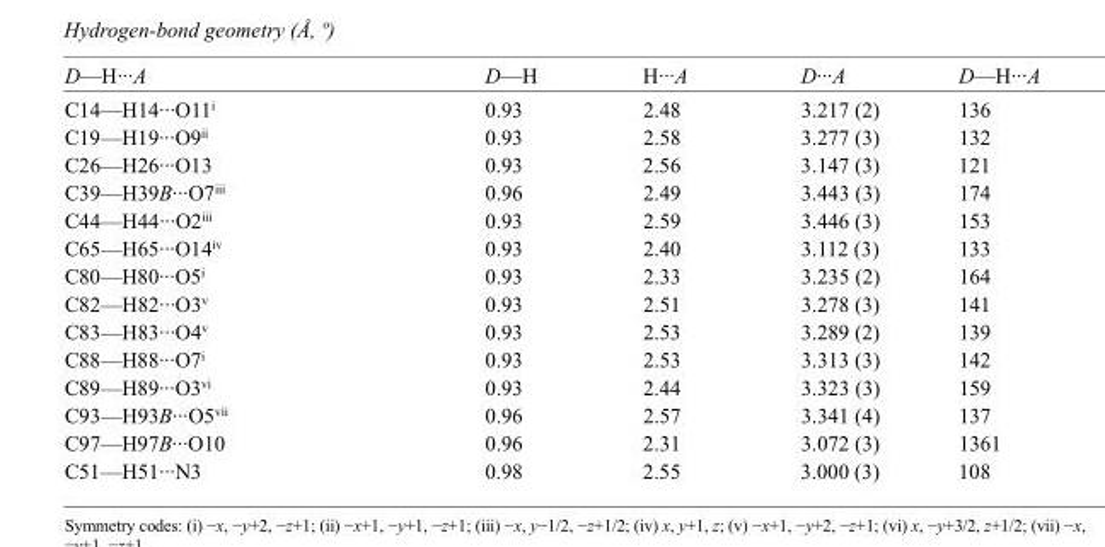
<table><tbody><tr><td>D—H···A</td><td>D—H</td><td>H···A</td><td>D···A</td><td>D—H···A</td></tr><tr><td>C14—H14···O11<sup>i</sup></td><td>0.93</td><td>2.48</td><td>3.217 (2)</td><td>136</td></tr><tr><td>C19—H19···O9<sup>ii</sup></td><td>0.93</td><td>2.58</td><td>3.277 (3)</td><td>132</td></tr><tr><td>C26—H26···O13</td><td>0.93</td><td>2.56</td><td>3.147 (3)</td><td>121</td></tr><tr><td>C39—H39B···O7<sup>iii</sup></td><td>0.96</td><td>2.49</td><td>3.443 (3)</td><td>174</td></tr><tr><td>C44—H44···O2<sup>iii</sup></td><td>0.93</td><td>2.59</td><td>3.446 (3)</td><td>153</td></tr><tr><td>C65—H65···O14<sup>iv</sup></td><td>0.93</td><td>2.40</td><td>3.112 (3)</td><td>133</td></tr><tr><td>C80—H80···O5<sup>i</sup></td><td>0.93</td><td>2.33</td><td>3.235 (2)</td><td>164</td></tr><tr><td>C82—H82···O3<sup>v</sup></td><td>0.93</td><td>2.51</td><td>3.278 (3)</td><td>141</td></tr><tr><td>C83—H83···O4<sup>v</sup></td><td>0.93</td><td>2.53</td><td>3.289 (2)</td><td>139</td></tr><tr><td>C88—H88···O7<sup>i</sup></td><td>0.93</td><td>2.53</td><td>3.313 (3)</td><td>142</td></tr><tr><td>C89—H89···O3<sup>vi</sup></td><td>0.93</td><td>2.44</td><td>3.323 (3)</td><td>159</td></tr><tr><td>C93—H93B···O5<sup>vii</sup></td><td>0.96</td><td>2.57</td><td>3.341 (4)</td><td>137</td></tr><tr><td>C97—H97B···O10</td><td>0.96</td><td>2.31</td><td>3.072 (3)</td><td>1361</td></tr><tr><td>C51—H51···N3</td><td>0.98</td><td>2.55</td><td>3.000 (3)</td><td>108</td></tr></tbody></table>